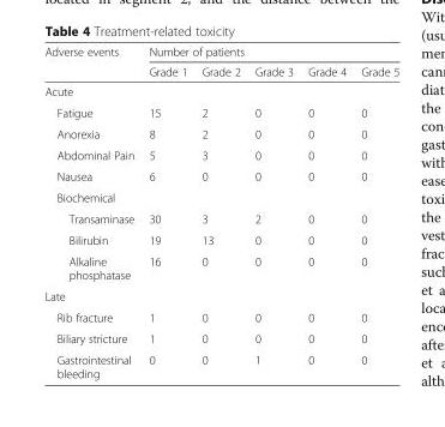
<table><thead><tr><td rowspan="2">Adverse events</td><td colspan="5">Number of patients</td></tr><tr><td>Grade 1</td><td>Grade 2</td><td>Grade 3</td><td>Grade 4</td><td>Grade 5</td></tr></thead><tbody><tr><td colspan="6">Acute</td></tr><tr><td>Fatigue</td><td>15</td><td>2</td><td>0</td><td>0</td><td>0</td></tr><tr><td>Anorexia</td><td>8</td><td>2</td><td>0</td><td>0</td><td>0</td></tr><tr><td>Abdominal Pain</td><td>5</td><td>3</td><td>0</td><td>0</td><td>0</td></tr><tr><td>Nausea</td><td>6</td><td>0</td><td>0</td><td>0</td><td>0</td></tr><tr><td colspan="6">Biochemical</td></tr><tr><td>Transaminase</td><td>30</td><td>3</td><td>2</td><td>0</td><td>0</td></tr><tr><td>Bilirubin</td><td>19</td><td>13</td><td>0</td><td>0</td><td>0</td></tr><tr><td>Alkaline phosphatase</td><td>16</td><td>0</td><td>0</td><td>0</td><td>0</td></tr><tr><td colspan="6">Late</td></tr><tr><td>Rib fracture</td><td>1</td><td>0</td><td>0</td><td>0</td><td>0</td></tr><tr><td>Biliary stricture</td><td>1</td><td>0</td><td>0</td><td>0</td><td>0</td></tr><tr><td>Gastrointestinal bleeding</td><td>0</td><td>0</td><td>1</td><td>0</td><td>0</td></tr></tbody></table>